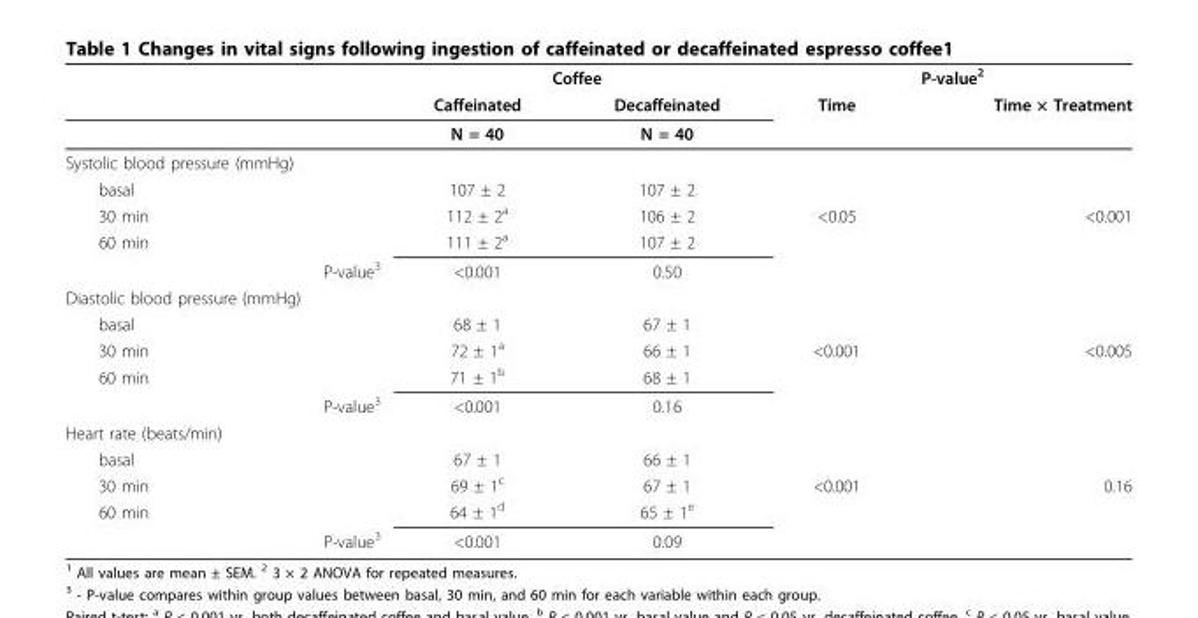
<table><thead><tr><td rowspan="3"></td><td colspan="2">Coffee</td><td colspan="2">P-value<sup>2</sup></td></tr><tr><td rowspan="2">Caffeinated N = 40</td><td rowspan="2">Decaffeinated N = 40</td><td rowspan="2">Time</td><td rowspan="2">Time × Treatment</td></tr><tr></tr></thead><tbody><tr><td colspan="5">Systolic blood pressure (mmHg)</td></tr><tr><td>basal</td><td>107 ± 2</td><td>107 ± 2</td><td></td><td></td></tr><tr><td>30 min</td><td>112 ± 2<sup>a</sup></td><td>106 ± 2</td><td>&lt;0.05</td><td>&lt;0.001</td></tr><tr><td>60 min</td><td>111 ± 2<sup>a</sup></td><td>107 ± 2</td><td></td><td></td></tr><tr><td>P-value<sup>3</sup></td><td>&lt;0.001</td><td>0.50</td><td></td><td></td></tr><tr><td colspan="5">Diastolic blood pressure (mmHg)</td></tr><tr><td>basal</td><td>68 ± 1</td><td>67 ± 1</td><td></td><td></td></tr><tr><td>30 min</td><td>72 ± 1<sup>a</sup></td><td>66 ± 1</td><td>&lt;0.001</td><td>&lt;0.005</td></tr><tr><td>60 min</td><td>71 ± 1<sup>b</sup></td><td>68 ± 1</td><td></td><td></td></tr><tr><td>P-value<sup>3</sup></td><td>&lt;0.001</td><td>0.16</td><td></td><td></td></tr><tr><td colspan="5">Heart rate (beats/min)</td></tr><tr><td>basal</td><td>67 ± 1</td><td>66 ± 1</td><td></td><td></td></tr><tr><td>30 min</td><td>69 ± 1<sup>c</sup></td><td>67 ± 1</td><td>&lt;0.001</td><td>0.16</td></tr><tr><td>60 min</td><td>64 ± 1<sup>d</sup></td><td>65 ± 1<sup>e</sup></td><td></td><td></td></tr><tr><td>P-value<sup>3</sup></td><td>&lt;0.001</td><td>0.09</td><td></td><td></td></tr></tbody></table>